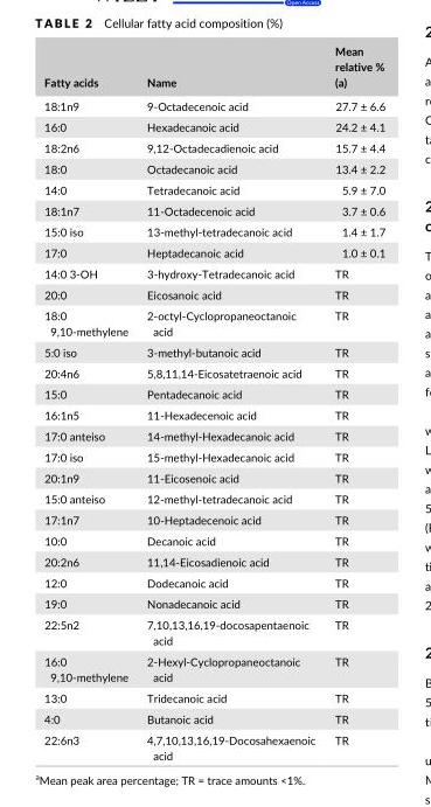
<table><thead><tr><td>Fatty acids</td><td>Name</td><td>Mean relative % (a)</td></tr></thead><tbody><tr><td>18:1n9</td><td>9- Octadecenoic acid</td><td>27.7 ± 6.6</td></tr><tr><td>16:0</td><td>Hexadecanoic acid</td><td>24.2 ± 4.1</td></tr><tr><td>18:2n6</td><td>9,12- Octadecadienoic acid</td><td>15.7 ± 4.4</td></tr><tr><td>18:0</td><td>Octadecanoic acid</td><td>13.4 ± 2.2</td></tr><tr><td>14:0</td><td>Tetradecanoic acid</td><td>5.9 ± 7.0</td></tr><tr><td>18:1n7</td><td>11- Octadecenoic acid</td><td>3.7 ± 0.6</td></tr><tr><td>15:0 iso</td><td>13- methyl- tetradecanoic acid</td><td>1.4 ± 1.7</td></tr><tr><td>17:0</td><td>Heptadecanoic acid</td><td>1.0 ± 0.1</td></tr><tr><td>14:0 3- OH</td><td>3- hydroxy- Tetradecanoic acid</td><td>TR</td></tr><tr><td>20:0</td><td>Eicosanoic acid</td><td>TR</td></tr><tr><td>18:0 9,10- methylene</td><td>2- octyl- Cyclopropaneoctanoic acid</td><td>TR</td></tr><tr><td>5:0 iso</td><td>3- methyl- butanoic acid</td><td>TR</td></tr><tr><td>20:4n6</td><td>5,8,11,14- Eicosatetraenoic acid</td><td>TR</td></tr><tr><td>15:0</td><td>Pentadecanoic acid</td><td>TR</td></tr><tr><td>16:1n5</td><td>11- Hexadecenoic acid</td><td>TR</td></tr><tr><td>17:0 anteiso</td><td>14- methyl- Hexadecanoic acid</td><td>TR</td></tr><tr><td>17:0 iso</td><td>15- methyl- Hexadecanoic acid</td><td>TR</td></tr><tr><td>20:1n9</td><td>11- Eicosenoic acid</td><td>TR</td></tr><tr><td>15:0 anteiso</td><td>12- methyl- tetradecanoic acid</td><td>TR</td></tr><tr><td>17:1n7</td><td>10- Heptadecenoic acid</td><td>TR</td></tr><tr><td>10:0</td><td>Decanoic acid</td><td>TR</td></tr><tr><td>20:2n6</td><td>11,14- Eicosadienoic acid</td><td>TR</td></tr><tr><td>12:0</td><td>Dodecanoic acid</td><td>TR</td></tr><tr><td>19:0</td><td>Nonadecanoic acid</td><td>TR</td></tr><tr><td>22:5n2</td><td>7,10,13,16,19- docosapentaenoic acid</td><td>TR</td></tr><tr><td>16:0 9,10- methylene</td><td>2- Hexyl- Cyclopropaneoctanoic acid</td><td>TR</td></tr><tr><td>13:0</td><td>Tridecanoic acid</td><td>TR</td></tr><tr><td>4:0</td><td>Butanoic acid</td><td>TR</td></tr><tr><td>22:6n3</td><td>4,7,10,13,16,19- Docosahexaenoic acid</td><td>TR</td></tr></tbody></table>